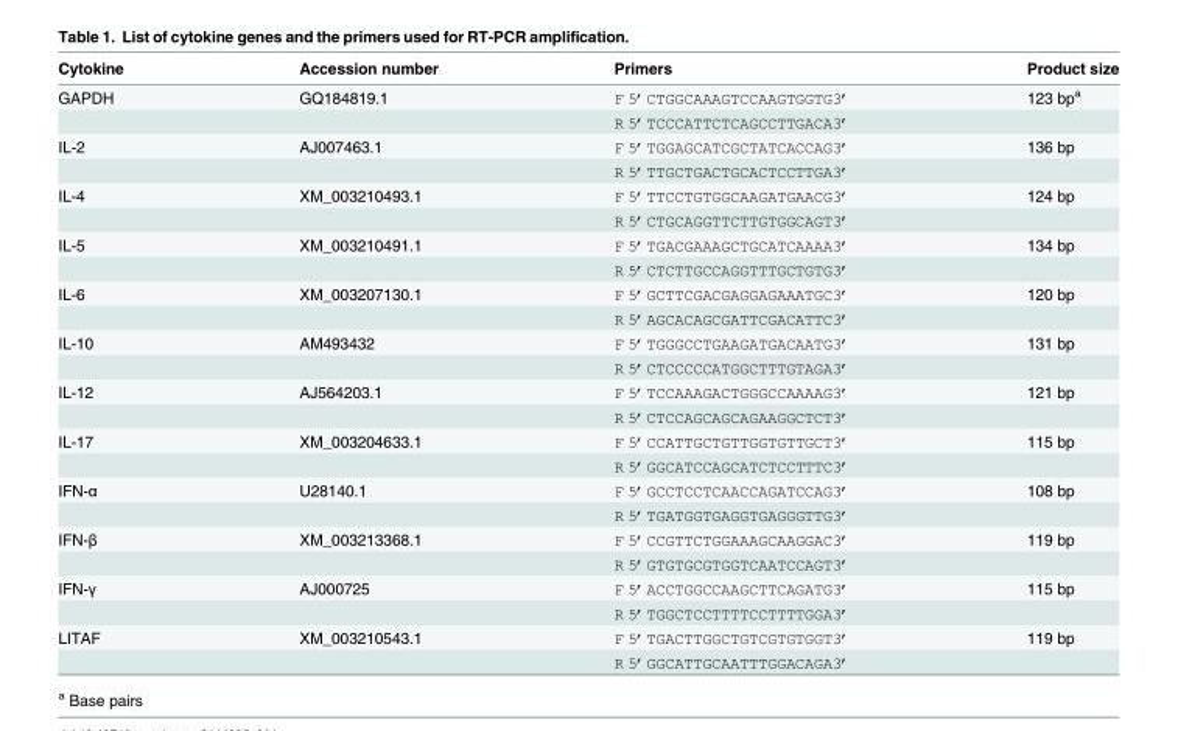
<table><thead><tr><td>Cytokine</td><td>Accession number</td><td>Primers</td><td>Product size</td></tr></thead><tbody><tr><td rowspan="2">GAPDH</td><td>GQ184819.1</td><td>F 5’CTGGCAAAGTCCAAGTGGTG3’</td><td>123 bp<sup>a</sup></td></tr><tr><td></td><td>R 5’TCCCATTCTCAGCCTTGACA3’</td><td></td></tr><tr><td rowspan="2">IL-2</td><td>AJ007463.1</td><td>F 5’TGGAGCATCGCTATCACCAG3’</td><td>136 bp</td></tr><tr><td></td><td>R 5’TTGCTGACTGCACTCCTTGA3’</td><td></td></tr><tr><td rowspan="2">IL-4</td><td>XM_003210493.1</td><td>F 5’TTCCTGTGGCAAGATGAACG3’</td><td>124 bp</td></tr><tr><td></td><td>R 5’CTGCAGGTTCTTGTGGCAGT3’</td><td></td></tr><tr><td rowspan="2">IL-5</td><td>XM_003210491.1</td><td>F 5’TGACGAAAGCTGCATCAAAA3’</td><td>134 bp</td></tr><tr><td></td><td>R 5’CTCTTGCCAGGTTTGCTGTG3’</td><td></td></tr><tr><td rowspan="2">IL-6</td><td>XM_003207130.1</td><td>F 5’GCTTCGACGAGGAGAAATGC3’</td><td>120 bp</td></tr><tr><td></td><td>R 5’AGCACAGCGATTCGACATTC3’</td><td></td></tr><tr><td rowspan="2">IL-10</td><td>AM493432</td><td>F 5’TGGGCCTGAAGATGACAATG3’</td><td>131 bp</td></tr><tr><td></td><td>R 5’CTCCCCCATGGCTTTGTAGA3’</td><td></td></tr><tr><td rowspan="2">IL-12</td><td>AJ564203.1</td><td>F 5’TCCAAAGACTGGGCCAAAAG3’</td><td>121 bp</td></tr><tr><td></td><td>R 5’CTCCAGCAGCAGAAGGCTCT3’</td><td></td></tr><tr><td rowspan="2">IL-17</td><td>XM_003204633.1</td><td>F 5’CCATTGCTGTTGGTGTTGCT3’</td><td>115 bp</td></tr><tr><td></td><td>R 5’GGCATCCAGCATCTCCTTTC3’</td><td></td></tr><tr><td rowspan="2">IFN-α</td><td>U28140.1</td><td>F 5’GCCTCCTCAACCAGATCCAG3’</td><td>108 bp</td></tr><tr><td></td><td>R 5’TGATGGTGAGGTGAGGGTTG3’</td><td></td></tr><tr><td rowspan="2">IFN-β</td><td>XM_003213368.1</td><td>F 5’CCGTTCTGGAAAGCAAGGAC3’</td><td>119 bp</td></tr><tr><td></td><td>R 5’GTGTGCGTGGTCAATCCAGT3’</td><td></td></tr><tr><td rowspan="2">IFN-γ</td><td>AJ000725</td><td>F 5’ACCTGGCCAAGCTTCAGATG3’</td><td>115 bp</td></tr><tr><td></td><td>R 5’TGGCTCCTTTTCCTTTTGGA3’</td><td></td></tr><tr><td rowspan="2">LITAF</td><td>XM_003210543.1</td><td>F 5’TGACTTGGCTGTCGTGTGGT3’</td><td>119 bp</td></tr><tr><td></td><td>R 5’GGCATTGCAATTTGGACAGA3’</td><td></td></tr></tbody></table>